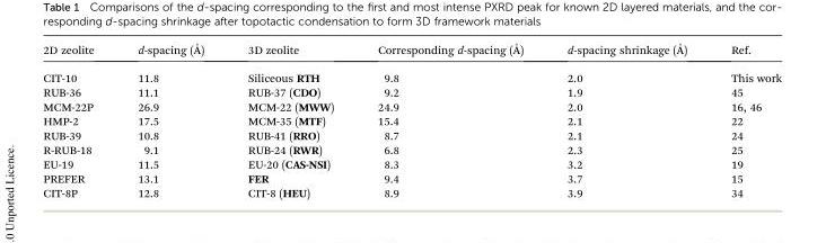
<table><thead><tr><td>2D zeolite</td><td>d-spacing (˚A)</td><td>3D zeolite</td><td>Corresponding d-spacing (˚A)</td><td>d-spacing shrinkage (˚A)</td><td>Ref.</td></tr></thead><tbody><tr><td>CIT-10</td><td>11.8</td><td>Siliceous RTH</td><td>9.8</td><td>2.0</td><td>This work</td></tr><tr><td>RUB-36</td><td>11.1</td><td>RUB-37 (CDO)</td><td>9.2</td><td>1.9</td><td>45</td></tr><tr><td>MCM-22P</td><td>26.9</td><td>MCM-22 (MWW)</td><td>24.9</td><td>2.0</td><td>16, 46</td></tr><tr><td>HMP-2</td><td>17.5</td><td>MCM-35 (MTF)</td><td>15.4</td><td>2.1</td><td>22</td></tr><tr><td>RUB-39</td><td>10.8</td><td>RUB-41 (RRO)</td><td>8.7</td><td>2.1</td><td>24</td></tr><tr><td>R-RUB-18</td><td>9.1</td><td>RUB-24 (RWR)</td><td>6.8</td><td>2.3</td><td>25</td></tr><tr><td>EU-19</td><td>11.5</td><td>EU-20 (CAS-NSI)</td><td>8.3</td><td>3.2</td><td>19</td></tr><tr><td>PREFER</td><td>13.1</td><td>FER</td><td>9.4</td><td>3.7</td><td>15</td></tr><tr><td>CIT-8P</td><td>12.8</td><td>CIT-8 (HEU)</td><td>8.9</td><td>3.9</td><td>34</td></tr></tbody></table>